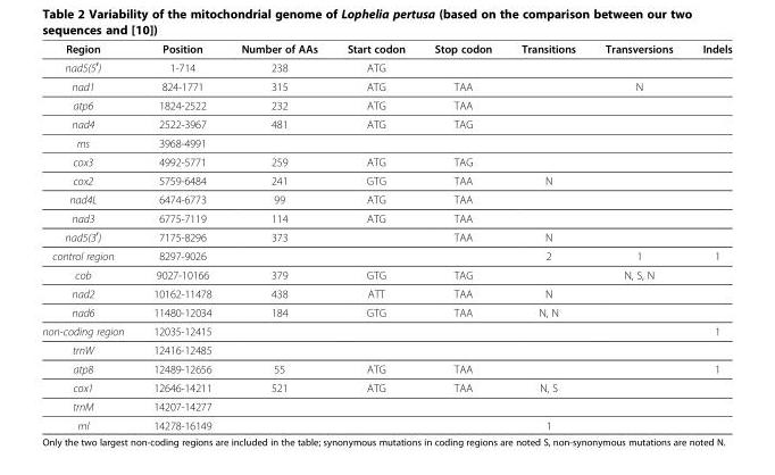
<table><thead><tr><td>Region</td><td>Position</td><td>Number of AAs</td><td>Start codon</td><td>Stop codon</td><td>Transitions</td><td>Transversions</td><td>Indels</td></tr></thead><tbody><tr><td>nad5(5<sup>′</sup>)</td><td>1-714</td><td>238</td><td>ATG</td><td></td><td></td><td></td><td></td></tr><tr><td>nad1</td><td>824-1771</td><td>315</td><td>ATG</td><td>TAA</td><td></td><td>N</td><td></td></tr><tr><td>atp6</td><td>1824-2522</td><td>232</td><td>ATG</td><td>TAA</td><td></td><td></td><td></td></tr><tr><td>nad4</td><td>2522-3967</td><td>481</td><td>ATG</td><td>TAG</td><td></td><td></td><td></td></tr><tr><td>rns</td><td>3968-4991</td><td></td><td></td><td></td><td></td><td></td><td></td></tr><tr><td>cox3</td><td>4992-5771</td><td>259</td><td>ATG</td><td>TAG</td><td></td><td></td><td></td></tr><tr><td>cox2</td><td>5759-6484</td><td>241</td><td>GTG</td><td>TAA</td><td>N</td><td></td><td></td></tr><tr><td>nad4L</td><td>6474-6773</td><td>99</td><td>ATG</td><td>TAA</td><td></td><td></td><td></td></tr><tr><td>nad3</td><td>6775-7119</td><td>114</td><td>ATG</td><td>TAA</td><td></td><td></td><td></td></tr><tr><td>nad5(3<sup>′</sup>)</td><td>7175-8296</td><td>373</td><td></td><td>TAA</td><td>N</td><td></td><td></td></tr><tr><td>control region</td><td>8297-9026</td><td></td><td></td><td></td><td>2</td><td>1</td><td>1</td></tr><tr><td>cob</td><td>9027-10166</td><td>379</td><td>GTG</td><td>TAG</td><td></td><td>N, S, N</td><td></td></tr><tr><td>nad2</td><td>10162-11478</td><td>438</td><td>ATT</td><td>TAA</td><td>N</td><td></td><td></td></tr><tr><td>nad6</td><td>11480-12034</td><td>184</td><td>GTG</td><td>TAA</td><td>N, N</td><td></td><td></td></tr><tr><td>non-coding region</td><td>12035-12415</td><td></td><td></td><td></td><td></td><td></td><td>1</td></tr><tr><td>trnW</td><td>12416-12485</td><td></td><td></td><td></td><td></td><td></td><td></td></tr><tr><td>atp8</td><td>12489-12656</td><td>55</td><td>ATG</td><td>TAA</td><td></td><td></td><td>1</td></tr><tr><td>cox1</td><td>12646-14211</td><td>521</td><td>ATG</td><td>TAA</td><td>N, S</td><td></td><td></td></tr><tr><td>trnM</td><td>14207-14277</td><td></td><td></td><td></td><td></td><td></td><td></td></tr><tr><td>rnl</td><td>14278-16149</td><td></td><td></td><td></td><td>1</td><td></td><td></td></tr></tbody></table>